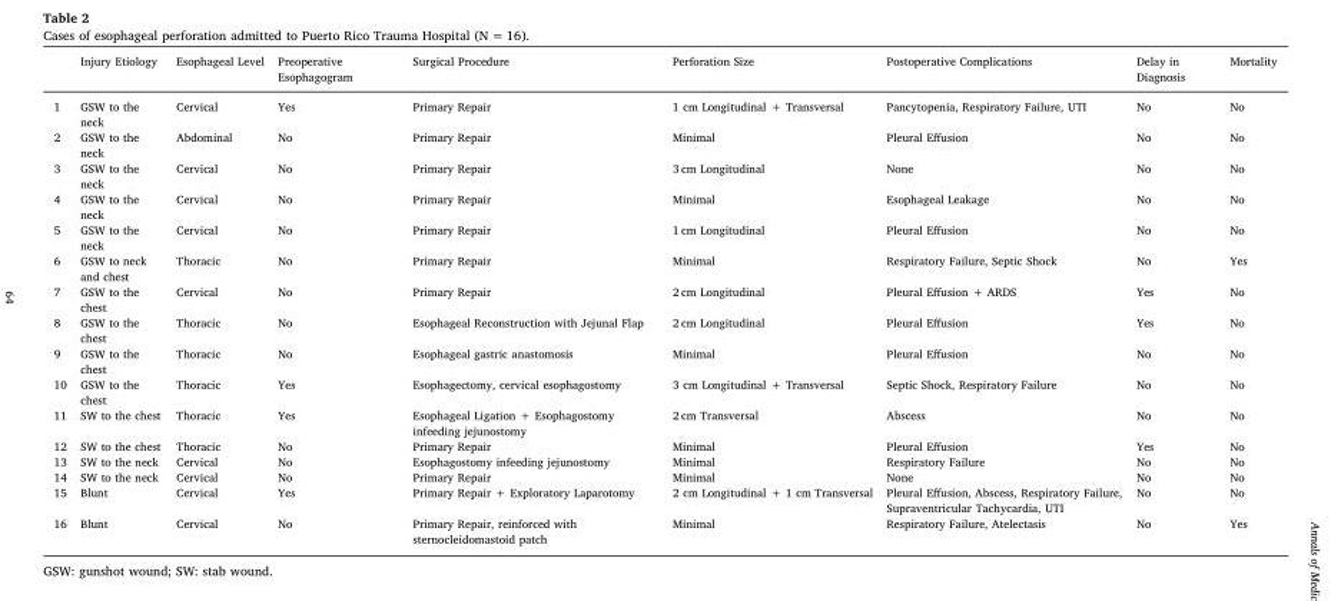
<table><thead><tr><td></td><td>Injury Etiology</td><td>Esophageal Level</td><td>Preoperative Esophagogram</td><td>Surgical Procedure</td><td>Perforation Size</td><td>Postoperative Complications</td><td>Delay in Diagnosis</td><td>Mortality</td></tr></thead><tbody><tr><td>1</td><td>GSW to the neck</td><td>Cervical</td><td>Yes</td><td>Primary Repair</td><td>1 cm Longitudinal + Transversal</td><td>Pancytopenia, Respiratory Failure, UTI</td><td>No</td><td>No</td></tr><tr><td>2</td><td>GSW to the neck</td><td>Abdominal</td><td>No</td><td>Primary Repair</td><td>Minimal</td><td>Pleural Effusion</td><td>No</td><td>No</td></tr><tr><td>3</td><td>GSW to the neck</td><td>Cervical</td><td>No</td><td>Primary Repair</td><td>3 cm Longitudinal</td><td>None</td><td>No</td><td>No</td></tr><tr><td>4</td><td>GSW to the neck</td><td>Cervical</td><td>No</td><td>Primary Repair</td><td>Minimal</td><td>Esophageal Leakage</td><td>No</td><td>No</td></tr><tr><td>5</td><td>GSW to the neck</td><td>Cervical</td><td>No</td><td>Primary Repair</td><td>1 cm Longitudinal</td><td>Pleural Effusion</td><td>No</td><td>No</td></tr><tr><td>6</td><td>GSW to neck and chest</td><td>Thoracic</td><td>No</td><td>Primary Repair</td><td>Minimal</td><td>Respiratory Failure, Septic Shock</td><td>No</td><td>Yes</td></tr><tr><td>7</td><td>GSW to the chest</td><td>Cervical</td><td>No</td><td>Primary Repair</td><td>2 cm Longitudinal</td><td>Pleural Effusion + ARDS</td><td>Yes</td><td>No</td></tr><tr><td>8</td><td>GSW to the chest</td><td>Thoracic</td><td>No</td><td>Esophageal Reconstruction with Jejunal Flap</td><td>2 cm Longitudinal</td><td>Pleural Effusion</td><td>Yes</td><td>No</td></tr><tr><td>9</td><td>GSW to the chest</td><td>Thoracic</td><td>No</td><td>Esophageal gastric anastomosis</td><td>Minimal</td><td>Pleural Effusion</td><td>No</td><td>No</td></tr><tr><td>10</td><td>GSW to the chest</td><td>Thoracic</td><td>Yes</td><td>Esophagectomy, cervical esophagostomy</td><td>3 cm Longitudinal + Transversal</td><td>Septic Shock, Respiratory Failure</td><td>No</td><td>No</td></tr><tr><td>11</td><td>SW to the chest</td><td>Thoracic</td><td>Yes</td><td>Esophageal Ligation + Esophagostomy infeeding jejunostomy</td><td>2 cm Transversal</td><td>Abscess</td><td>No</td><td>No</td></tr><tr><td>12</td><td>SW to the chest</td><td>Thoracic</td><td>No</td><td>Primary Repair</td><td>Minimal</td><td>Pleural Effusion</td><td>Yes</td><td>No</td></tr><tr><td>13</td><td>SW to the neck</td><td>Cervical</td><td>No</td><td>Esophagostomy infeeding jejunostomy</td><td>Minimal</td><td>Respiratory Failure</td><td>No</td><td>No</td></tr><tr><td>14</td><td>SW to the neck</td><td>Cervical</td><td>No</td><td>Primary Repair</td><td>Minimal</td><td>None</td><td>No</td><td>No</td></tr><tr><td>15</td><td>Blunt</td><td>Cervical</td><td>Yes</td><td>Primary Repair + Exploratory Laparotomy</td><td>2 cm Longitudinal + 1 cm Transversal</td><td>Pleural Effusion, Abscess, Respiratory Failure, Supraventricular Tachycardia, UTI</td><td>No</td><td>No</td></tr><tr><td>16</td><td>Blunt</td><td>Cervical</td><td>No</td><td>Primary Repair, reinforced with sternocleidomastoid patch</td><td>Minimal</td><td>Respiratory Failure, Atelectasis</td><td>No</td><td>Yes</td></tr></tbody></table>